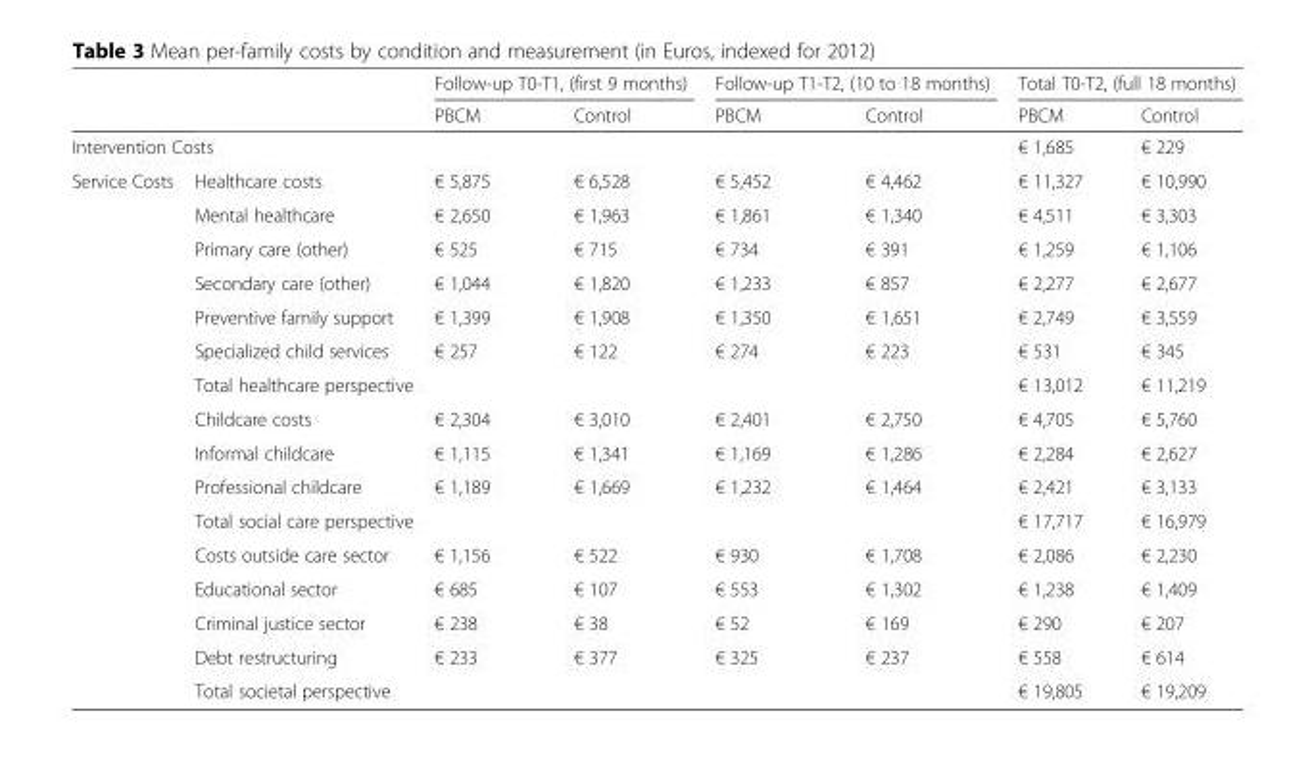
<table><thead><tr><td rowspan="2"></td><td rowspan="2"></td><td colspan="2">Follow-up T0-T1, (first 9 months)</td><td colspan="2">Follow-up T1-T2, (10 to 18 months)</td><td colspan="2">Total T0-T2, (full 18 months)</td></tr><tr><td>PBCM</td><td>Control</td><td>PBCM</td><td>Control</td><td>PBCM</td><td>Control</td></tr></thead><tbody><tr><td colspan="2">Intervention Costs</td><td></td><td></td><td></td><td></td><td>€ 1,685</td><td>€ 229</td></tr><tr><td rowspan="16">Service Costs</td><td>Healthcare costs</td><td>€ 5,875</td><td>€ 6,528</td><td>€ 5,452</td><td>€ 4,462</td><td>€ 11,327</td><td>€ 10,990</td></tr><tr><td>Mental healthcare</td><td>€ 2,650</td><td>€ 1,963</td><td>€ 1,861</td><td>€ 1,340</td><td>€ 4,511</td><td>€ 3,303</td></tr><tr><td>Primary care (other)</td><td>€ 525</td><td>€ 715</td><td>€ 734</td><td>€ 391</td><td>€ 1,259</td><td>€ 1,106</td></tr><tr><td>Secondary care (other)</td><td>€ 1,044</td><td>€ 1,820</td><td>€ 1,233</td><td>€ 857</td><td>€ 2,277</td><td>€ 2,677</td></tr><tr><td>Preventive family support</td><td>€ 1,399</td><td>€ 1,908</td><td>€ 1,350</td><td>€ 1,651</td><td>€ 2,749</td><td>€ 3,559</td></tr><tr><td>Specialized child services</td><td>€ 257</td><td>€ 122</td><td>€ 274</td><td>€ 223</td><td>€ 531</td><td>€ 345</td></tr><tr><td>Total healthcare perspective</td><td></td><td></td><td></td><td></td><td>€ 13,012</td><td>€ 11,219</td></tr><tr><td>Childcare costs</td><td>€ 2,304</td><td>€ 3,010</td><td>€ 2,401</td><td>€ 2,750</td><td>€ 4,705</td><td>€ 5,760</td></tr><tr><td>Informal childcare</td><td>€ 1,115</td><td>€ 1,341</td><td>€ 1,169</td><td>€ 1,286</td><td>€ 2,284</td><td>€ 2,627</td></tr><tr><td>Professional childcare</td><td>€ 1,189</td><td>€ 1,669</td><td>€ 1,232</td><td>€ 1,464</td><td>€ 2,421</td><td>€ 3,133</td></tr><tr><td>Total social care perspective</td><td></td><td></td><td></td><td></td><td>€ 17,717</td><td>€ 16,979</td></tr><tr><td>Costs outside care sector</td><td>€ 1,156</td><td>€ 522</td><td>€ 930</td><td>€ 1,708</td><td>€ 2,086</td><td>€ 2,230</td></tr><tr><td>Educational sector</td><td>€ 685</td><td>€ 107</td><td>€ 553</td><td>€ 1,302</td><td>€ 1,238</td><td>€ 1,409</td></tr><tr><td>Criminal justice sector</td><td>€ 238</td><td>€ 38</td><td>€ 52</td><td>€ 169</td><td>€ 290</td><td>€ 207</td></tr><tr><td>Debt restructuring</td><td>€ 233</td><td>€ 377</td><td>€ 325</td><td>€ 237</td><td>€ 558</td><td>€ 614</td></tr><tr><td>Total societal perspective</td><td></td><td></td><td></td><td></td><td>€ 19,805</td><td>€ 19,209</td></tr></tbody></table>